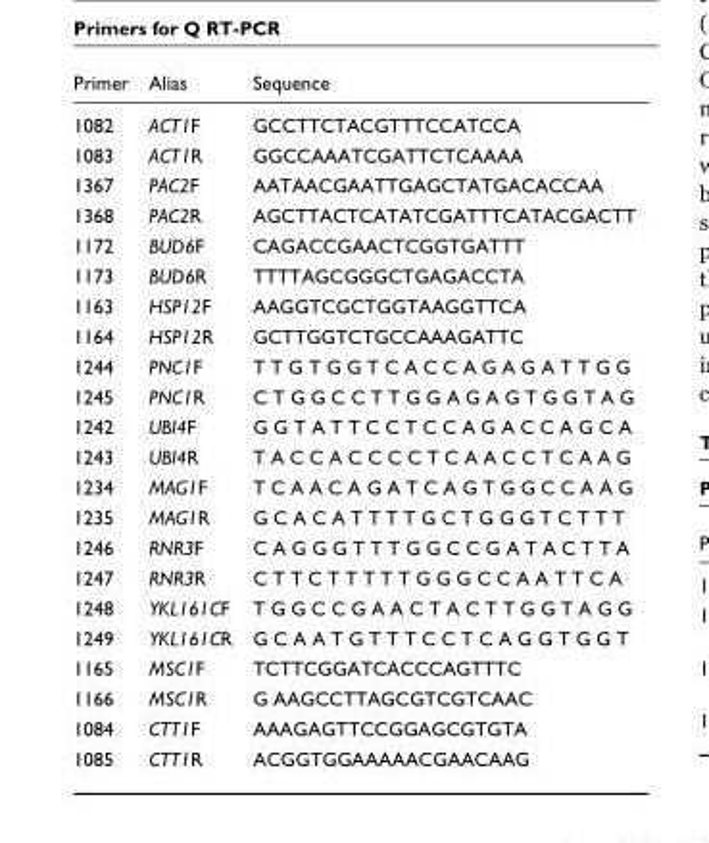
<table><thead><tr><td>Primer</td><td>Alias</td><td>Sequence</td></tr></thead><tbody><tr><td>1082</td><td>ACT1F</td><td>GCCTTCTACGTTTCCATCCA</td></tr><tr><td>1083</td><td>ACT1R</td><td>GGCCAAATCGATTCTCAAAA</td></tr><tr><td>1367</td><td>PAC2F</td><td>AATAACGAATTGAGCTATGACACCAA</td></tr><tr><td>1368</td><td>PAC2R</td><td>AGCTTACTCATATCGATTTCATACGACTT</td></tr><tr><td>1172</td><td>BUD6F</td><td>CAGACCGAACTCGGTGATTT</td></tr><tr><td>1173</td><td>BUD6R</td><td>TTTTAGCGGGCTGAGACCTA</td></tr><tr><td>1163</td><td>HSP12F</td><td>AAGGTCGCTGGTAAGGTTCA</td></tr><tr><td>1164</td><td>HSP12R</td><td>GCTTGGTCTGCCAAAGATTC</td></tr><tr><td>1244</td><td>PNC1F</td><td>T T G T G G T C A C C A G A G A T T G G</td></tr><tr><td>1245</td><td>PNC1R</td><td>C T G G C C T T G G A G A G T G G T A G</td></tr><tr><td>1242</td><td>UBI4F</td><td>G G T A T T C C T C C A G A C C A G C A</td></tr><tr><td>1243</td><td>UBI4R</td><td>T A C C A C C C C T C A A C C T C A A G</td></tr><tr><td>1234</td><td>MAG1F</td><td>T C A A C A G A T C A G T G G C C A A G</td></tr><tr><td>1235</td><td>MAG1R</td><td>G C A C A T T T T G C T G G G T C T T T</td></tr><tr><td>1246</td><td>RNR3F</td><td>C A G G G T T T G G C C G A T A C T T A</td></tr><tr><td>1247</td><td>RNR3R</td><td>C T T C T T T T T G G G C C A A T T C A</td></tr><tr><td>1248</td><td>YKL161CF</td><td>T G G C C G A A C T A C T T G G T A G G</td></tr><tr><td>1249</td><td>YKL161CR</td><td>G C A A T G T T T C C T C A G G T G G T</td></tr><tr><td>1165</td><td>MSC1F</td><td>TCTTCGGATCACCCAGTTTC</td></tr><tr><td>1166</td><td>MSC1R</td><td>G AAGCCTTAGCGTCGTCAAC</td></tr><tr><td>1084</td><td>CTT1F</td><td>AAAGAGTTCCGGAGCGTGTA</td></tr><tr><td>1085</td><td>CTT1R</td><td>ACGGTGGAAAAACGAACAAG</td></tr></tbody></table>